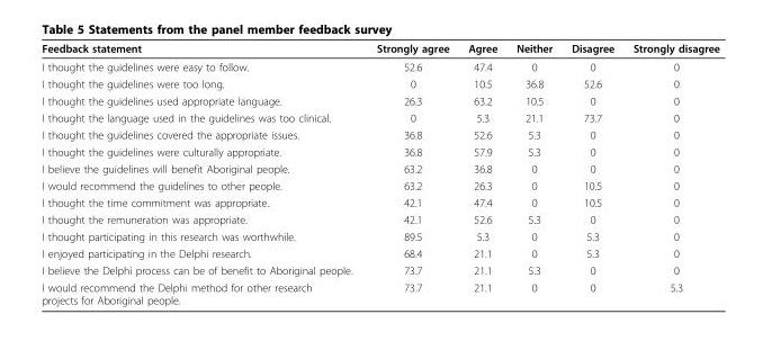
<table><thead><tr><td>Feedback statement</td><td>Strongly agree</td><td>Agree</td><td>Neither</td><td>Disagree</td><td>Strongly disagree</td></tr></thead><tbody><tr><td>I thought the guidelines were easy to follow.</td><td>52.6</td><td>47.4</td><td>0</td><td>0</td><td>0</td></tr><tr><td>I thought the guidelines were too long.</td><td>0</td><td>10.5</td><td>36.8</td><td>52.6</td><td>0</td></tr><tr><td>I thought the guidelines used appropriate language.</td><td>26.3</td><td>63.2</td><td>10.5</td><td>0</td><td>0</td></tr><tr><td>I thought the language used in the guidelines was too clinical.</td><td>0</td><td>5.3</td><td>21.1</td><td>73.7</td><td>0</td></tr><tr><td>I thought the guidelines covered the appropriate issues.</td><td>36.8</td><td>52.6</td><td>5.3</td><td>0</td><td>0</td></tr><tr><td>I thought the guidelines were culturally appropriate.</td><td>36.8</td><td>57.9</td><td>5.3</td><td>0</td><td>0</td></tr><tr><td>I believe the guidelines will benefit Aboriginal people.</td><td>63.2</td><td>36.8</td><td>0</td><td>0</td><td>0</td></tr><tr><td>I would recommend the guidelines to other people.</td><td>63.2</td><td>26.3</td><td>0</td><td>10.5</td><td>0</td></tr><tr><td>I thought the time commitment was appropriate.</td><td>42.1</td><td>47.4</td><td>0</td><td>10.5</td><td>0</td></tr><tr><td>I thought the remuneration was appropriate.</td><td>42.1</td><td>52.6</td><td>5.3</td><td>0</td><td>0</td></tr><tr><td>I thought participating in this research was worthwhile.</td><td>89.5</td><td>5.3</td><td>0</td><td>5.3</td><td>0</td></tr><tr><td>I enjoyed participating in the Delphi research.</td><td>68.4</td><td>21.1</td><td>0</td><td>5.3</td><td>0</td></tr><tr><td>I believe the Delphi process can be of benefit to Aboriginal people.</td><td>73.7</td><td>21.1</td><td>5.3</td><td>0</td><td>0</td></tr><tr><td>I would recommend the Delphi method for other research projects for Aboriginal people.</td><td>73.7</td><td>21.1</td><td>0</td><td>0</td><td>5.3</td></tr></tbody></table>